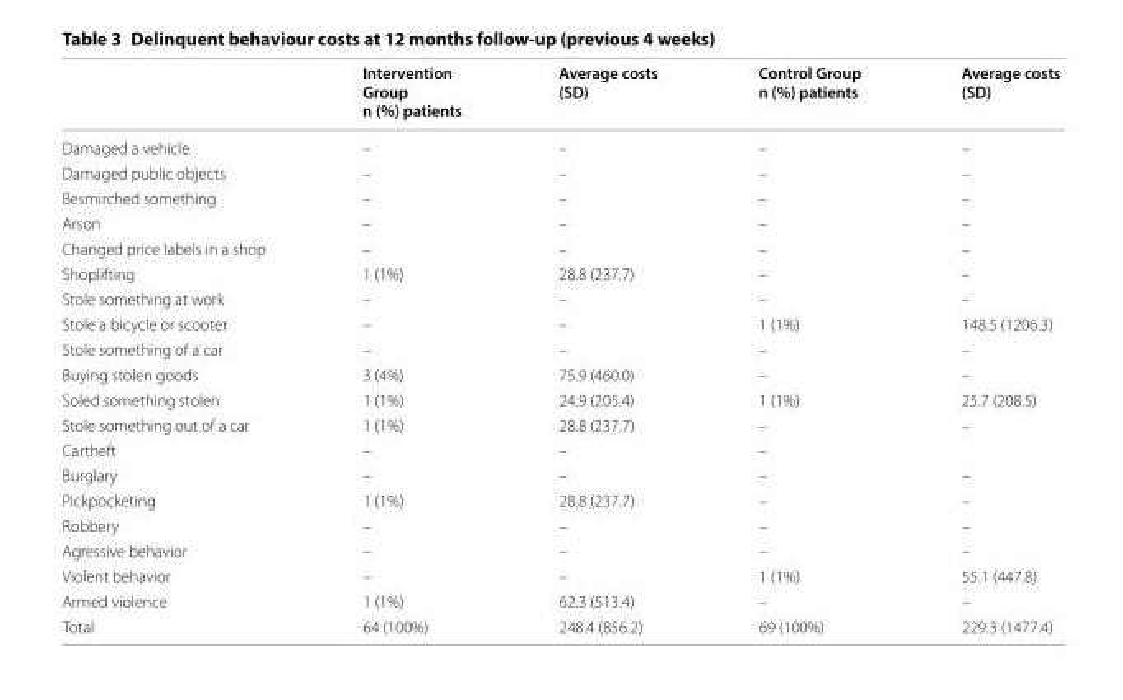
<table><thead><tr><td></td><td>Intervention Group n (%) patients</td><td>Average costs (SD)</td><td>Control Group n (%) patients</td><td>Average costs (SD)</td></tr></thead><tbody><tr><td>Damaged a vehicle</td><td>–</td><td>–</td><td>–</td><td>–</td></tr><tr><td>Damaged public objects</td><td>–</td><td>–</td><td>–</td><td>–</td></tr><tr><td>Besmirched something</td><td>–</td><td>–</td><td>–</td><td>–</td></tr><tr><td>Arson</td><td>–</td><td>–</td><td>–</td><td>–</td></tr><tr><td>Changed price labels in a shop</td><td>–</td><td>–</td><td>–</td><td>–</td></tr><tr><td>Shoplifting</td><td>1 (1%)</td><td>28.8 (237.7)</td><td>–</td><td>–</td></tr><tr><td>Stole something at work</td><td>–</td><td>–</td><td>–</td><td>–</td></tr><tr><td>Stole a bicycle or scooter</td><td>–</td><td>–</td><td>1 (1%)</td><td>148.5 (1206.3)</td></tr><tr><td>Stole something of a car</td><td>–</td><td>–</td><td>–</td><td>–</td></tr><tr><td>Buying stolen goods</td><td>3 (4%)</td><td>75.9 (460.0)</td><td>–</td><td>–</td></tr><tr><td>Soled something stolen</td><td>1 (1%)</td><td>24.9 (205.4)</td><td>1 (1%)</td><td>25.7 (208.5)</td></tr><tr><td>Stole something out of a car</td><td>1 (1%)</td><td>28.8 (237.7)</td><td>–</td><td>–</td></tr><tr><td>Cartheft</td><td>–</td><td>–</td><td>–</td><td></td></tr><tr><td>Burglary</td><td>–</td><td>–</td><td>–</td><td>–</td></tr><tr><td>Pickpocketing</td><td>1 (1%)</td><td>28.8 (237.7)</td><td>–</td><td>–</td></tr><tr><td>Robbery</td><td>–</td><td>–</td><td>–</td><td>–</td></tr><tr><td>Agressive behavior</td><td>–</td><td>–</td><td>–</td><td>–</td></tr><tr><td>Violent behavior</td><td>–</td><td>–</td><td>1 (1%)</td><td>55.1 (447.8)</td></tr><tr><td>Armed violence</td><td>1 (1%)</td><td>62.3 (513.4)</td><td>–</td><td>–</td></tr><tr><td>Total</td><td>64 (100%)</td><td>248.4 (856.2)</td><td>69 (100%)</td><td>229.3 (1477.4)</td></tr></tbody></table>